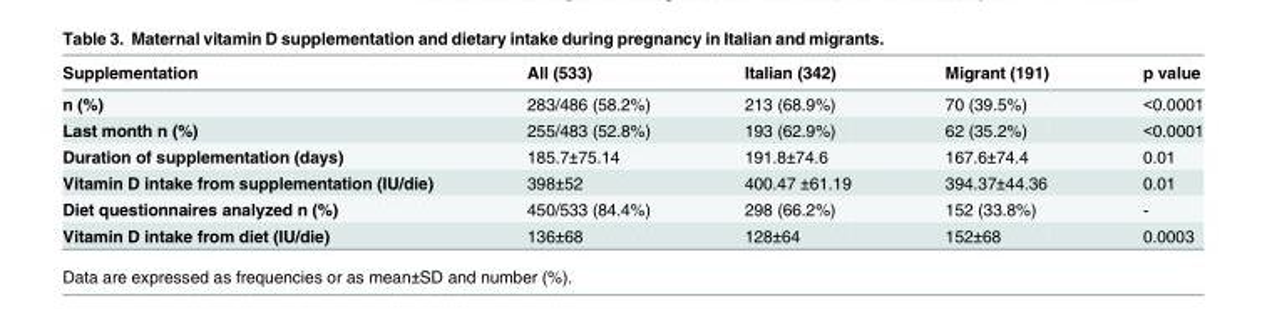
<table><thead><tr><td>Supplementation</td><td>All (533)</td><td>Italian (342)</td><td>Migrant (191)</td><td>p value</td></tr></thead><tbody><tr><td>n (%)</td><td>283/486 (58.2%)</td><td>213 (68.9%)</td><td>70 (39.5%)</td><td>&lt;0.0001</td></tr><tr><td>Last month n (%)</td><td>255/483 (52.8%)</td><td>193 (62.9%)</td><td>62 (35.2%)</td><td>&lt;0.0001</td></tr><tr><td>Duration of supplementation (days)</td><td>185.7±75.14</td><td>191.8±74.6</td><td>167.6±74.4</td><td>0.01</td></tr><tr><td>Vitamin D intake from supplementation (IU/die)</td><td>398±52</td><td>400.47 ±61.19</td><td>394.37±44.36</td><td>0.01</td></tr><tr><td>Diet questionnaires analyzed n (%)</td><td>450/533 (84.4%)</td><td>298 (66.2%)</td><td>152 (33.8%)</td><td>-</td></tr><tr><td>Vitamin D intake from diet (IU/die)</td><td>136±68</td><td>128±64</td><td>152±68</td><td>0.0003</td></tr></tbody></table>